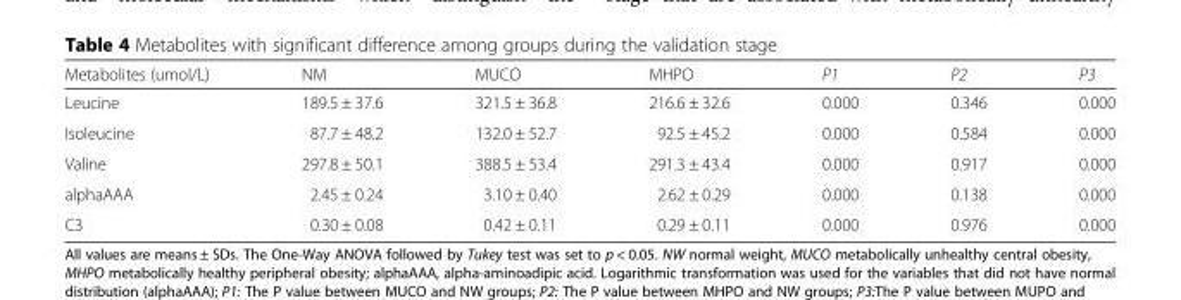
<table><thead><tr><td>Metabolites (umol/L)</td><td>NM</td><td>MUCO</td><td>MHPO</td><td>P1</td><td>P2</td><td>P3</td></tr></thead><tbody><tr><td>Leucine</td><td>189.5 ± 37.6</td><td>321.5 ± 36.8</td><td>216.6 ± 32.6</td><td>0.000</td><td>0.346</td><td>0.000</td></tr><tr><td>Isoleucine</td><td>87.7 ± 48.2</td><td>132.0 ± 52.7</td><td>92.5 ± 45.2</td><td>0.000</td><td>0.584</td><td>0.000</td></tr><tr><td>Valine</td><td>297.8 ± 50.1</td><td>388.5 ± 53.4</td><td>291.3 ± 43.4</td><td>0.000</td><td>0.917</td><td>0.000</td></tr><tr><td>alphaAAA</td><td>2.45 ± 0.24</td><td>3.10 ± 0.40</td><td>2.62 ± 0.29</td><td>0.000</td><td>0.138</td><td>0.000</td></tr><tr><td>C3</td><td>0.30 ± 0.08</td><td>0.42 ± 0.11</td><td>0.29 ± 0.11</td><td>0.000</td><td>0.976</td><td>0.000</td></tr></tbody></table>